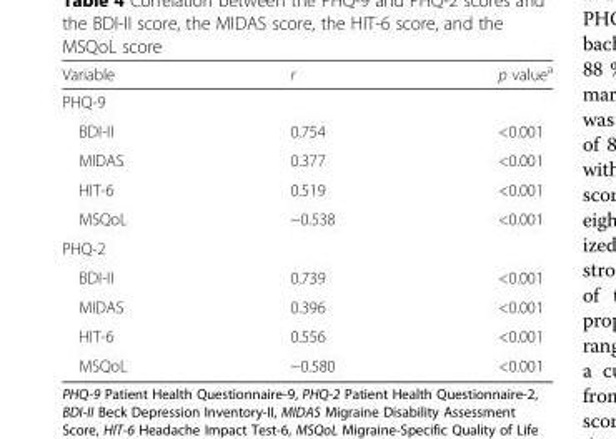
<table><thead><tr><td>Variable</td><td>r</td><td>p value<sup>a</sup></td></tr></thead><tbody><tr><td colspan="3">PHQ-9</td></tr><tr><td>BDI-II</td><td>0.754</td><td>&lt;0.001</td></tr><tr><td>MIDAS</td><td>0.377</td><td>&lt;0.001</td></tr><tr><td>HIT-6</td><td>0.519</td><td>&lt;0.001</td></tr><tr><td>MSQoL</td><td>−0.538</td><td>&lt;0.001</td></tr><tr><td colspan="3">PHQ-2</td></tr><tr><td>BDI-II</td><td>0.739</td><td>&lt;0.001</td></tr><tr><td>MIDAS</td><td>0.396</td><td>&lt;0.001</td></tr><tr><td>HIT-6</td><td>0.556</td><td>&lt;0.001</td></tr><tr><td>MSQoL</td><td>−0.580</td><td>&lt;0.001</td></tr></tbody></table>